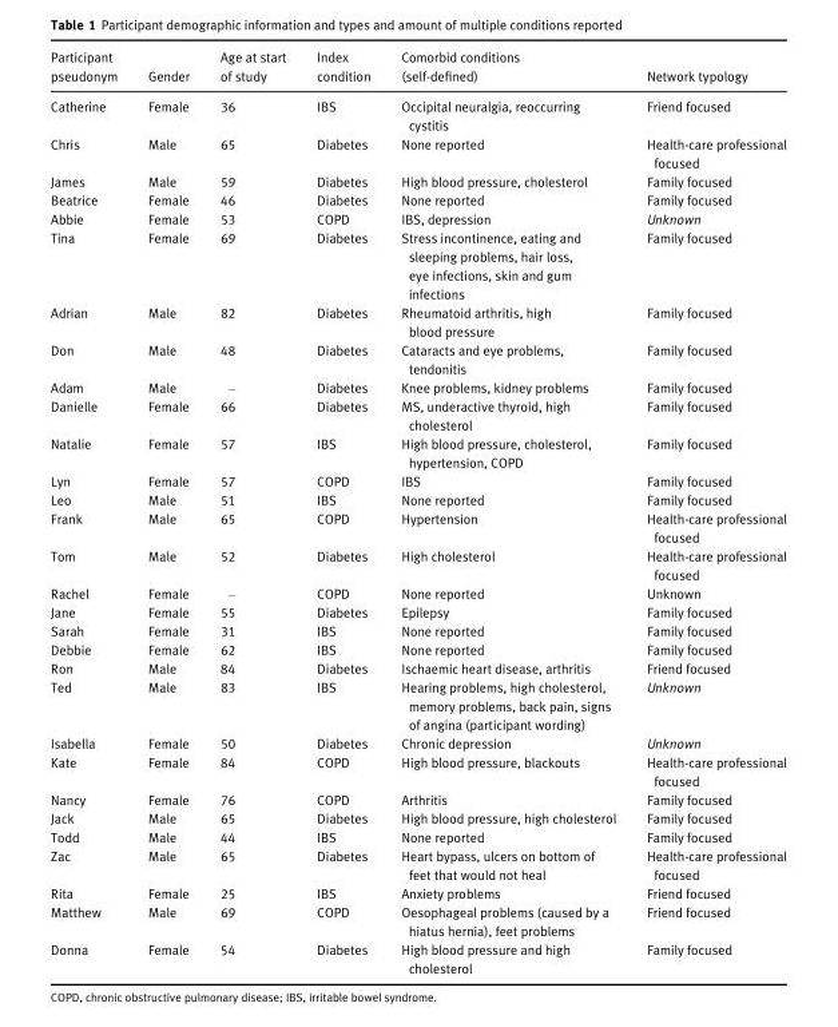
<table><thead><tr><td>Participant pseudonym</td><td>Gender</td><td>Age at start of study</td><td>Index condition</td><td>Comorbid conditions (self-defined)</td><td>Network typology</td></tr></thead><tbody><tr><td>Catherine</td><td>Female</td><td>36</td><td>IBS</td><td>Occipital neuralgia, reoccurring cystitis</td><td>Friend focused</td></tr><tr><td>Chris</td><td>Male</td><td>65</td><td>Diabetes</td><td>None reported</td><td>Health-care professional focused</td></tr><tr><td>James</td><td>Male</td><td>59</td><td>Diabetes</td><td>High blood pressure, cholesterol</td><td>Family focused</td></tr><tr><td>Beatrice</td><td>Female</td><td>46</td><td>Diabetes</td><td>None reported</td><td>Family focused</td></tr><tr><td>Abbie</td><td>Female</td><td>53</td><td>COPD</td><td>IBS, depression</td><td>Unknown</td></tr><tr><td>Tina</td><td>Female</td><td>69</td><td>Diabetes</td><td>Stress incontinence, eating and sleeping problems, hair loss, eye infections, skin and gum infections</td><td>Family focused</td></tr><tr><td>Adrian</td><td>Male</td><td>82</td><td>Diabetes</td><td>Rheumatoid arthritis, high blood pressure</td><td>Family focused</td></tr><tr><td>Don</td><td>Male</td><td>48</td><td>Diabetes</td><td>Cataracts and eye problems, tendonitis</td><td>Family focused</td></tr><tr><td>Adam</td><td>Male</td><td>–</td><td>Diabetes</td><td>Knee problems, kidney problems</td><td>Family focused</td></tr><tr><td>Danielle</td><td>Female</td><td>66</td><td>Diabetes</td><td>MS, underactive thyroid, high cholesterol</td><td>Family focused</td></tr><tr><td>Natalie</td><td>Female</td><td>57</td><td>IBS</td><td>High blood pressure, cholesterol, hypertension, COPD</td><td>Family focused</td></tr><tr><td>Lyn</td><td>Female</td><td>57</td><td>COPD</td><td>IBS</td><td>Family focused</td></tr><tr><td>Leo</td><td>Male</td><td>51</td><td>IBS</td><td>None reported</td><td>Family focused</td></tr><tr><td>Frank</td><td>Male</td><td>65</td><td>COPD</td><td>Hypertension</td><td>Health-care professional focused</td></tr><tr><td>Tom</td><td>Male</td><td>52</td><td>Diabetes</td><td>High cholesterol</td><td>Health-care professional focused</td></tr><tr><td>Rachel</td><td>Female</td><td>–</td><td>COPD</td><td>None reported</td><td>Unknown</td></tr><tr><td>Jane</td><td>Female</td><td>55</td><td>Diabetes</td><td>Epilepsy</td><td>Family focused</td></tr><tr><td>Sarah</td><td>Female</td><td>31</td><td>IBS</td><td>None reported</td><td>Family focused</td></tr><tr><td>Debbie</td><td>Female</td><td>62</td><td>IBS</td><td>None reported</td><td>Family focused</td></tr><tr><td>Ron</td><td>Male</td><td>84</td><td>Diabetes</td><td>Ischaemic heart disease, arthritis</td><td>Friend focused</td></tr><tr><td>Ted</td><td>Male</td><td>83</td><td>IBS</td><td>Hearing problems, high cholesterol, memory problems, back pain, signs of angina (participant wording)</td><td>Unknown</td></tr><tr><td>Isabella</td><td>Female</td><td>50</td><td>Diabetes</td><td>Chronic depression</td><td>Unknown</td></tr><tr><td>Kate</td><td>Female</td><td>84</td><td>COPD</td><td>High blood pressure, blackouts</td><td>Health-care professional focused</td></tr><tr><td>Nancy</td><td>Female</td><td>76</td><td>COPD</td><td>Arthritis</td><td>Family focused</td></tr><tr><td>Jack</td><td>Male</td><td>65</td><td>Diabetes</td><td>High blood pressure, high cholesterol</td><td>Family focused</td></tr><tr><td>Todd</td><td>Male</td><td>44</td><td>IBS</td><td>None reported</td><td>Family focused</td></tr><tr><td>Zac</td><td>Male</td><td>65</td><td>Diabetes</td><td>Heart bypass, ulcers on bottom of feet that would not heal</td><td>Health-care professional focused</td></tr><tr><td>Rita</td><td>Female</td><td>25</td><td>IBS</td><td>Anxiety problems</td><td>Friend focused</td></tr><tr><td>Matthew</td><td>Male</td><td>69</td><td>COPD</td><td>Oesophageal problems (caused by a hiatus hernia), feet problems</td><td>Friend focused</td></tr><tr><td>Donna</td><td>Female</td><td>54</td><td>Diabetes</td><td>High blood pressure and high cholesterol</td><td>Family focused</td></tr></tbody></table>